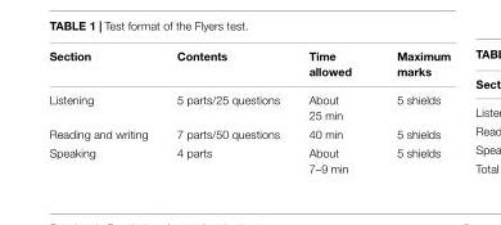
<table><thead><tr><td>Section</td><td>Contents</td><td>Time allowed</td><td>Maximum marks</td></tr></thead><tbody><tr><td>Listening</td><td>5 parts/25 questions</td><td>About 25 min</td><td>5 shields</td></tr><tr><td>Reading and writing</td><td>7 parts/50 questions</td><td>40 min</td><td>5 shields</td></tr><tr><td>Speaking</td><td>4 parts</td><td>About 7–9 min</td><td>5 shields</td></tr></tbody></table>